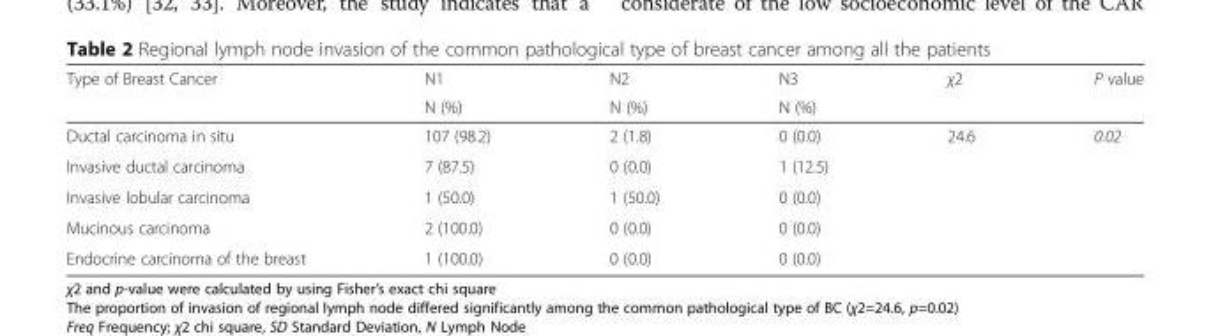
<table><thead><tr><td rowspan="2">Type of Breast Cancer</td><td rowspan="2">N1 N (%)</td><td rowspan="2">N2 N (%)</td><td rowspan="2">N3 N (%)</td><td rowspan="2">χ2</td><td rowspan="2">P value</td></tr><tr></tr></thead><tbody><tr><td>Ductal carcinoma in situ</td><td>107 (98.2)</td><td>2 (1.8)</td><td>0 (0.0)</td><td>24.6</td><td>0.02</td></tr><tr><td>Invasive ductal carcinoma</td><td>7 (87.5)</td><td>0 (0.0)</td><td>1 (12.5)</td><td></td><td></td></tr><tr><td>Invasive lobular carcinoma</td><td>1 (50.0)</td><td>1 (50.0)</td><td>0 (0.0)</td><td></td><td></td></tr><tr><td>Mucinous carcinoma</td><td>2 (100.0)</td><td>0 (0.0)</td><td>0 (0.0)</td><td></td><td></td></tr><tr><td>Endocrine carcinoma of the breast</td><td>1 (100.0)</td><td>0 (0.0)</td><td>0 (0.0)</td><td></td><td></td></tr></tbody></table>